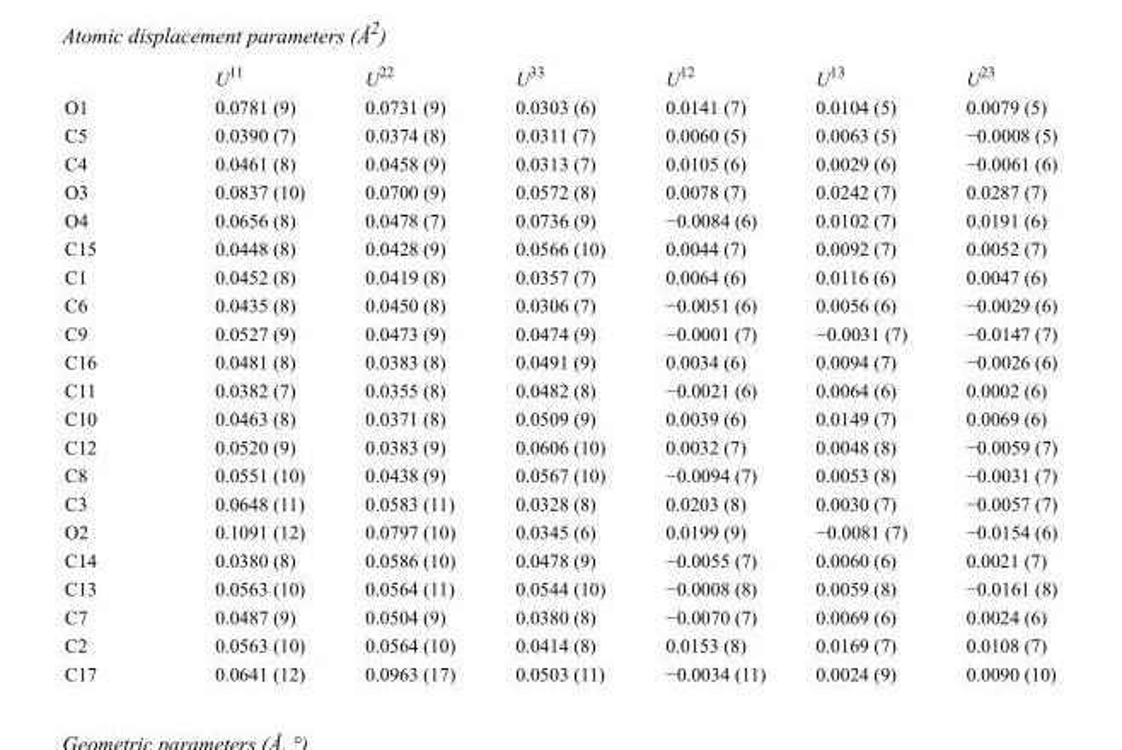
<table><thead><tr><td></td><td>U<sup>11</sup></td><td>U<sup>22</sup></td><td>U<sup>33</sup></td><td>U<sup>12</sup></td><td>U<sup>13</sup></td><td>U<sup>23</sup></td></tr></thead><tbody><tr><td>O1</td><td>0.0781 (9)</td><td>0.0731 (9)</td><td>0.0303 (6)</td><td>0.0141 (7)</td><td>0.0104 (5)</td><td>0.0079 (5)</td></tr><tr><td>C5</td><td>0.0390 (7)</td><td>0.0374 (8)</td><td>0.0311 (7)</td><td>0.0060 (5)</td><td>0.0063 (5)</td><td>−0.0008 (5)</td></tr><tr><td>C4</td><td>0.0461 (8)</td><td>0.0458 (9)</td><td>0.0313 (7)</td><td>0.0105 (6)</td><td>0.0029 (6)</td><td>−0.0061 (6)</td></tr><tr><td>O3</td><td>0.0837 (10)</td><td>0.0700 (9)</td><td>0.0572 (8)</td><td>0.0078 (7)</td><td>0.0242 (7)</td><td>0.0287 (7)</td></tr><tr><td>O4</td><td>0.0656 (8)</td><td>0.0478 (7)</td><td>0.0736 (9)</td><td>−0.0084 (6)</td><td>0.0102 (7)</td><td>0.0191 (6)</td></tr><tr><td>C15</td><td>0.0448 (8)</td><td>0.0428 (9)</td><td>0.0566 (10)</td><td>0.0044 (7)</td><td>0.0092 (7)</td><td>0.0052 (7)</td></tr><tr><td>C1</td><td>0.0452 (8)</td><td>0.0419 (8)</td><td>0.0357 (7)</td><td>0.0064 (6)</td><td>0.0116 (6)</td><td>0.0047 (6)</td></tr><tr><td>C6</td><td>0.0435 (8)</td><td>0.0450 (8)</td><td>0.0306 (7)</td><td>−0.0051 (6)</td><td>0.0056 (6)</td><td>−0.0029 (6)</td></tr><tr><td>C9</td><td>0.0527 (9)</td><td>0.0473 (9)</td><td>0.0474 (9)</td><td>−0.0001 (7)</td><td>−0.0031 (7)</td><td>−0.0147 (7)</td></tr><tr><td>C16</td><td>0.0481 (8)</td><td>0.0383 (8)</td><td>0.0491 (9)</td><td>0.0034 (6)</td><td>0.0094 (7)</td><td>−0.0026 (6)</td></tr><tr><td>C11</td><td>0.0382 (7)</td><td>0.0355 (8)</td><td>0.0482 (8)</td><td>−0.0021 (6)</td><td>0.0064 (6)</td><td>0.0002 (6)</td></tr><tr><td>C10</td><td>0.0463 (8)</td><td>0.0371 (8)</td><td>0.0509 (9)</td><td>0.0039 (6)</td><td>0.0149 (7)</td><td>0.0069 (6)</td></tr><tr><td>C12</td><td>0.0520 (9)</td><td>0.0383 (9)</td><td>0.0606 (10)</td><td>0.0032 (7)</td><td>0.0048 (8)</td><td>−0.0059 (7)</td></tr><tr><td>C8</td><td>0.0551 (10)</td><td>0.0438 (9)</td><td>0.0567 (10)</td><td>−0.0094 (7)</td><td>0.0053 (8)</td><td>−0.0031 (7)</td></tr><tr><td>C3</td><td>0.0648 (11)</td><td>0.0583 (11)</td><td>0.0328 (8)</td><td>0.0203 (8)</td><td>0.0030 (7)</td><td>−0.0057 (7)</td></tr><tr><td>O2</td><td>0.1091 (12)</td><td>0.0797 (10)</td><td>0.0345 (6)</td><td>0.0199 (9)</td><td>−0.0081 (7)</td><td>−0.0154 (6)</td></tr><tr><td>C14</td><td>0.0380 (8)</td><td>0.0586 (10)</td><td>0.0478 (9)</td><td>−0.0055 (7)</td><td>0.0060 (6)</td><td>0.0021 (7)</td></tr><tr><td>C13</td><td>0.0563 (10)</td><td>0.0564 (11)</td><td>0.0544 (10)</td><td>−0.0008 (8)</td><td>0.0059 (8)</td><td>−0.0161 (8)</td></tr><tr><td>C7</td><td>0.0487 (9)</td><td>0.0504 (9)</td><td>0.0380 (8)</td><td>−0.0070 (7)</td><td>0.0069 (6)</td><td>0.0024 (6)</td></tr><tr><td>C2</td><td>0.0563 (10)</td><td>0.0564 (10)</td><td>0.0414 (8)</td><td>0.0153 (8)</td><td>0.0169 (7)</td><td>0.0108 (7)</td></tr><tr><td>C17</td><td>0.0641 (12)</td><td>0.0963 (17)</td><td>0.0503 (11)</td><td>−0.0034 (11)</td><td>0.0024 (9)</td><td>0.0090 (10)</td></tr></tbody></table>